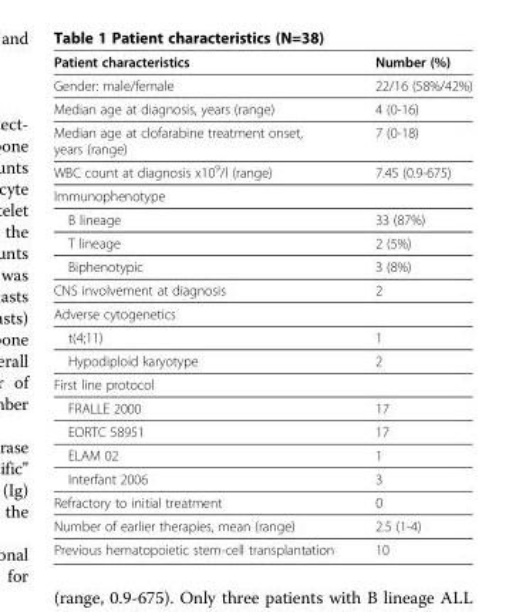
<table><thead><tr><td>Patient characteristics</td><td>Number (%)</td></tr></thead><tbody><tr><td>Gender: male/female</td><td>22/16 (58%/42%)</td></tr><tr><td>Median age at diagnosis, years (range)</td><td>4 (0-16)</td></tr><tr><td>Median age at clofarabine treatment onset, years (range)</td><td>7 (0-18)</td></tr><tr><td>WBC count at diagnosis x10<sup>9</sup>/l (range)</td><td>7.45 (0.9-675)</td></tr><tr><td colspan="2">Immunophenotype</td></tr><tr><td>B lineage</td><td>33 (87%)</td></tr><tr><td>T lineage</td><td>2 (5%)</td></tr><tr><td>Biphenotypic</td><td>3 (8%)</td></tr><tr><td>CNS involvement at diagnosis</td><td>2</td></tr><tr><td colspan="2">Adverse cytogenetics</td></tr><tr><td>t(4;11)</td><td>1</td></tr><tr><td>Hypodiploid karyotype</td><td>2</td></tr><tr><td colspan="2">First line protocol</td></tr><tr><td>FRALLE 2000</td><td>17</td></tr><tr><td>EORTC 58951</td><td>17</td></tr><tr><td>ELAM 02</td><td>1</td></tr><tr><td>Interfant 2006</td><td>3</td></tr><tr><td>Refractory to initial treatment</td><td>0</td></tr><tr><td>Number of earlier therapies, mean (range)</td><td>2.5 (1-4)</td></tr><tr><td>Previous hematopoietic stem-cell transplantation</td><td>10</td></tr></tbody></table>